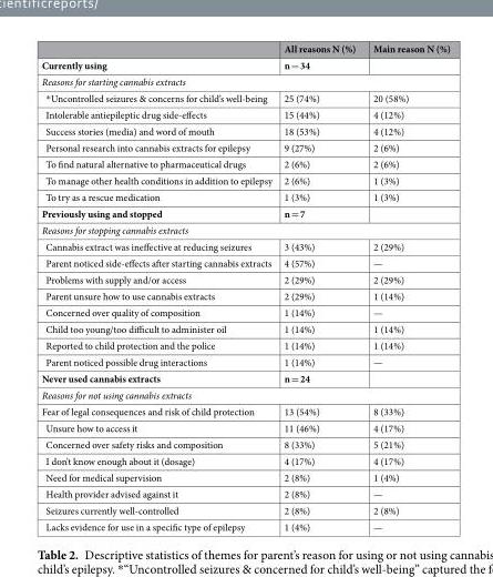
<table><thead><tr><td></td><td>All reasons N (%)</td><td>Main reason N (%)</td></tr></thead><tbody><tr><td>Currently using</td><td>n = 34</td><td></td></tr><tr><td colspan="3">Reasons for starting cannabis extracts</td></tr><tr><td>*Uncontrolled seizures &amp; concerns for child’s well-being</td><td>25 (74%)</td><td>20 (58%)</td></tr><tr><td>Intolerable antiepileptic drug side-effects</td><td>15 (44%)</td><td>4 (12%)</td></tr><tr><td>Success stories (media) and word of mouth</td><td>18 (53%)</td><td>4 (12%)</td></tr><tr><td>Personal research into cannabis extracts for epilepsy</td><td>9 (27%)</td><td>2 (6%)</td></tr><tr><td>To find natural alternative to pharmaceutical drugs</td><td>2 (6%)</td><td>2 (6%)</td></tr><tr><td>To manage other health conditions in addition to epilepsy</td><td>2 (6%)</td><td>1 (3%)</td></tr><tr><td>To try as a rescue medication</td><td>1 (3%)</td><td>1 (3%)</td></tr><tr><td>Previously using and stopped</td><td>n = 7</td><td></td></tr><tr><td colspan="3">Reasons for stopping cannabis extracts</td></tr><tr><td>Cannabis extract was ineffective at reducing seizures</td><td>3 (43%)</td><td>2 (29%)</td></tr><tr><td>Parent noticed side-effects after starting cannabis extracts</td><td>4 (57%)</td><td>—</td></tr><tr><td>Problems with supply and/or access</td><td>2 (29%)</td><td>2 (29%)</td></tr><tr><td>Parent unsure how to use cannabis extracts</td><td>2 (29%)</td><td>1 (14%)</td></tr><tr><td>Concerned over quality of composition</td><td>1 (14%)</td><td>—</td></tr><tr><td>Child too young/too difficult to administer oil</td><td>1 (14%)</td><td>1 (14%)</td></tr><tr><td>Reported to child protection and the police</td><td>1 (14%)</td><td>1 (14%)</td></tr><tr><td>Parent noticed possible drug interactions</td><td>1 (14%)</td><td>—</td></tr><tr><td>Never used cannabis extracts</td><td>n = 24</td><td></td></tr><tr><td colspan="3">Reasons for not using cannabis extracts</td></tr><tr><td>Fear of legal consequences and risk of child protection</td><td>13 (54%)</td><td>8 (33%)</td></tr><tr><td>Unsure how to access it</td><td>11 (46%)</td><td>4 (17%)</td></tr><tr><td>Concerned over safety risks and composition</td><td>8 (33%)</td><td>5 (21%)</td></tr><tr><td>I don’t know enough about it (dosage)</td><td>4 (17%)</td><td>4 (17%)</td></tr><tr><td>Need for medical supervision</td><td>2 (8%)</td><td>1 (4%)</td></tr><tr><td>Health provider advised against it</td><td>2 (8%)</td><td>—</td></tr><tr><td>Seizures currently well-controlled</td><td>2 (8%)</td><td>2 (8%)</td></tr><tr><td>Lacks evidence for use in a specific type of epilepsy</td><td>1 (4%)</td><td>—</td></tr></tbody></table>